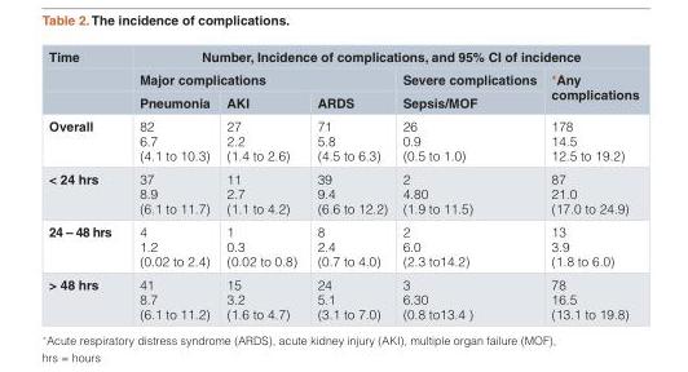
<table><thead><tr><td rowspan="3">Time</td><td colspan="5">Number, Incidence of complications, and 95% CI of incidence</td></tr><tr><td colspan="3">Major complications</td><td rowspan="2">Severe complications Sepsis/MOF</td><td rowspan="2">*Any complications</td></tr><tr><td>Pneumonia</td><td>AKI</td><td>ARDS</td></tr></thead><tbody><tr><td>Overall</td><td>82 6.7 (4.1 to 10.3)</td><td>27 2.2 (1.4 to 2.6)</td><td>71 5.8 (4.5 to 6.3)</td><td>26 0.9 (0.5 to 1.0)</td><td>178 14.5 12.5 to 19.2)</td></tr><tr><td>&lt; 24 hrs</td><td>37 8.9 (6.1 to 11.7)</td><td>11 2.7 (1.1 to 4.2)</td><td>39 9.4 (6.6 to 12.2)</td><td>2 4.80 (1.9 to 11.5)</td><td>87 21.0 (17.0 to 24.9)</td></tr><tr><td>24 – 48 hrs</td><td>4 1.2 (0.02 to 2.4)</td><td>1 0.3 (0.02 to 0.8)</td><td>8 2.4 (0.7 to 4.0)</td><td>2 6.0 (2.3 to14.2)</td><td>13 3.9 (1.8 to 6.0)</td></tr><tr><td>&gt; 48 hrs</td><td>41 8.7 (6.1 to 11.2)</td><td>15 3.2 (1.6 to 4.7)</td><td>24 5.1 (3.1 to 7.0)</td><td>3 6.30 (0.8 to13.4 )</td><td>78 16.5 (13.1 to 19.8)</td></tr></tbody></table>